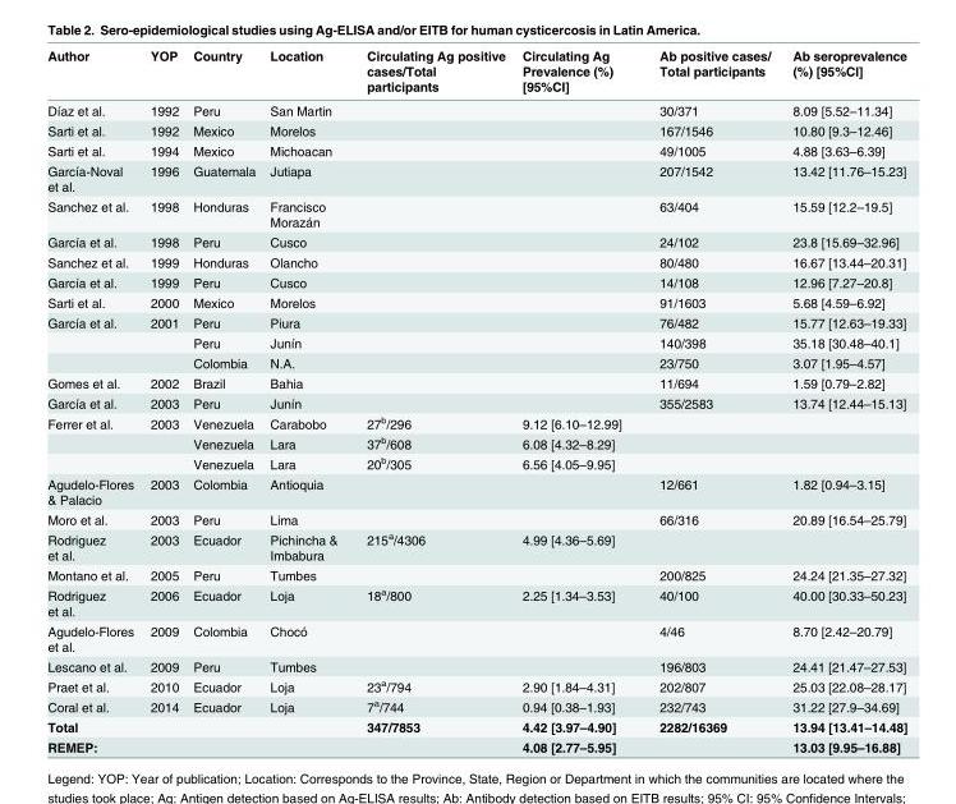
<table><thead><tr><td>Author</td><td>YOP</td><td>Country</td><td>Location</td><td>Circulating Ag positive cases/Total participants</td><td>Circulating Ag Prevalence (%) [95%CI]</td><td>Ab positive cases/ Total participants</td><td>Ab seroprevalence (%) [95%CI]</td></tr></thead><tbody><tr><td>Díaz et al.</td><td>1992</td><td>Peru</td><td>San Martin</td><td></td><td></td><td>30/371</td><td>8.09 [5.52–11.34]</td></tr><tr><td>Sarti et al.</td><td>1992</td><td>Mexico</td><td>Morelos</td><td></td><td></td><td>167/1546</td><td>10.80 [9.3–12.46]</td></tr><tr><td>Sarti et al.</td><td>1994</td><td>Mexico</td><td>Michoacan</td><td></td><td></td><td>49/1005</td><td>4.88 [3.63–6.39]</td></tr><tr><td>García-Noval et al.</td><td>1996</td><td>Guatemala</td><td>Jutiapa</td><td></td><td></td><td>207/1542</td><td>13.42 [11.76–15.23]</td></tr><tr><td>Sanchez et al.</td><td>1998</td><td>Honduras</td><td>Francisco Morazán</td><td></td><td></td><td>63/404</td><td>15.59 [12.2–19.5]</td></tr><tr><td>García et al.</td><td>1998</td><td>Peru</td><td>Cusco</td><td></td><td></td><td>24/102</td><td>23.8 [15.69–32.96]</td></tr><tr><td>Sanchez et al.</td><td>1999</td><td>Honduras</td><td>Olancho</td><td></td><td></td><td>80/480</td><td>16.67 [13.44–20.31]</td></tr><tr><td>García et al.</td><td>1999</td><td>Peru</td><td>Cusco</td><td></td><td></td><td>14/108</td><td>12.96 [7.27–20.8]</td></tr><tr><td>Sarti et al.</td><td>2000</td><td>Mexico</td><td>Morelos</td><td></td><td></td><td>91/1603</td><td>5.68 [4.59–6.92]</td></tr><tr><td rowspan="3">García et al.</td><td>2001</td><td>Peru</td><td>Piura</td><td></td><td></td><td>76/482</td><td>15.77 [12.63–19.33]</td></tr><tr><td></td><td>Peru</td><td>Junín</td><td></td><td></td><td>140/398</td><td>35.18 [30.48–40.1]</td></tr><tr><td></td><td>Colombia</td><td>N.A.</td><td></td><td></td><td>23/750</td><td>3.07 [1.95–4.57]</td></tr><tr><td>Gomes et al.</td><td>2002</td><td>Brazil</td><td>Bahia</td><td></td><td></td><td>11/694</td><td>1.59 [0.79–2.82]</td></tr><tr><td>García et al.</td><td>2003</td><td>Peru</td><td>Junín</td><td></td><td></td><td>355/2583</td><td>13.74 [12.44–15.13]</td></tr><tr><td rowspan="3">Ferrer et al.</td><td>2003</td><td>Venezuela</td><td>Carabobo</td><td>27<sup>b</sup>/296</td><td>9.12 [6.10–12.99]</td><td></td><td></td></tr><tr><td></td><td>Venezuela</td><td>Lara</td><td>37<sup>b</sup>/608</td><td>6.08 [4.32–8.29]</td><td></td><td></td></tr><tr><td></td><td>Venezuela</td><td>Lara</td><td>20<sup>b</sup>/305</td><td>6.56 [4.05–9.95]</td><td></td><td></td></tr><tr><td>Agudelo-Flores &amp; Palacio</td><td>2003</td><td>Colombia</td><td>Antioquia</td><td></td><td></td><td>12/661</td><td>1.82 [0.94–3.15]</td></tr><tr><td>Moro et al.</td><td>2003</td><td>Peru</td><td>Lima</td><td></td><td></td><td>66/316</td><td>20.89 [16.54–25.79]</td></tr><tr><td>Rodriguez et al.</td><td>2003</td><td>Ecuador</td><td>Pichincha &amp; Imbabura</td><td>215<sup>a</sup>/4306</td><td>4.99 [4.36–5.69]</td><td></td><td></td></tr><tr><td>Montano et al.</td><td>2005</td><td>Peru</td><td>Tumbes</td><td></td><td></td><td>200/825</td><td>24.24 [21.35–27.32]</td></tr><tr><td>Rodriguez et al.</td><td>2006</td><td>Ecuador</td><td>Loja</td><td>18<sup>a</sup>/800</td><td>2.25 [1.34–3.53]</td><td>40/100</td><td>40.00 [30.33–50.23]</td></tr><tr><td>Agudelo-Flores et al.</td><td>2009</td><td>Colombia</td><td>Chocó</td><td></td><td></td><td>4/46</td><td>8.70 [2.42–20.79]</td></tr><tr><td>Lescano et al.</td><td>2009</td><td>Peru</td><td>Tumbes</td><td></td><td></td><td>196/803</td><td>24.41 [21.47–27.53]</td></tr><tr><td>Praet et al.</td><td>2010</td><td>Ecuador</td><td>Loja</td><td>23<sup>a</sup>/794</td><td>2.90 [1.84–4.31]</td><td>202/807</td><td>25.03 [22.08–28.17]</td></tr><tr><td>Coral et al.</td><td>2014</td><td>Ecuador</td><td>Loja</td><td>7<sup>a</sup>/744</td><td>0.94 [0.38–1.93]</td><td>232/743</td><td>31.22 [27.9–34.69]</td></tr><tr><td>Total</td><td></td><td></td><td></td><td>347/7853</td><td>4.42 [3.97–4.90]</td><td>2282/16369</td><td>13.94 [13.41–14.48]</td></tr><tr><td>REMEP:</td><td></td><td></td><td></td><td></td><td>4.08 [2.77–5.95]</td><td></td><td>13.03 [9.95–16.88]</td></tr></tbody></table>